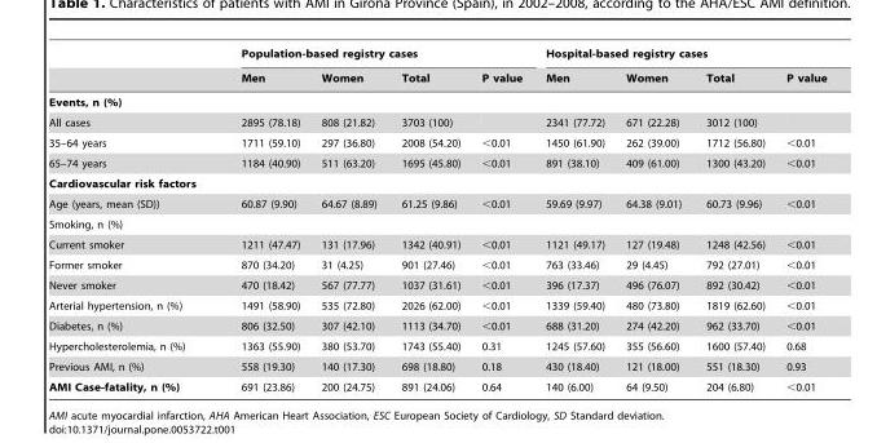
<table><thead><tr><td rowspan="2"></td><td colspan="4">Population-based registry cases</td><td colspan="4">Hospital-based registry cases</td></tr><tr><td>Men</td><td>Women</td><td>Total</td><td>P value</td><td>Men</td><td>Women</td><td>Total</td><td>P value</td></tr></thead><tbody><tr><td colspan="9">Events, n (%)</td></tr><tr><td>All cases</td><td>2895 (78.18)</td><td>808 (21.82)</td><td>3703 (100)</td><td></td><td>2341 (77.72)</td><td>671 (22.28)</td><td>3012 (100)</td><td></td></tr><tr><td>35–64 years</td><td>1711 (59.10)</td><td>297 (36.80)</td><td>2008 (54.20)</td><td>&lt;0.01</td><td>1450 (61.90)</td><td>262 (39.00)</td><td>1712 (56.80)</td><td>&lt;0.01</td></tr><tr><td>65–74 years</td><td>1184 (40.90)</td><td>511 (63.20)</td><td>1695 (45.80)</td><td>&lt;0.01</td><td>891 (38.10)</td><td>409 (61.00)</td><td>1300 (43.20)</td><td>&lt;0.01</td></tr><tr><td colspan="9">Cardiovascular risk factors</td></tr><tr><td>Age (years, mean (SD))</td><td>60.87 (9.90)</td><td>64.67 (8.89)</td><td>61.25 (9.86)</td><td>&lt;0.01</td><td>59.69 (9.97)</td><td>64.38 (9.01)</td><td>60.73 (9.96)</td><td>&lt;0.01</td></tr><tr><td colspan="9">Smoking, n (%)</td></tr><tr><td>Current smoker</td><td>1211 (47.47)</td><td>131 (17.96)</td><td>1342 (40.91)</td><td>&lt;0.01</td><td>1121 (49.17)</td><td>127 (19.48)</td><td>1248 (42.56)</td><td>&lt;0.01</td></tr><tr><td>Former smoker</td><td>870 (34.20)</td><td>31 (4.25)</td><td>901 (27.46)</td><td>&lt;0.01</td><td>763 (33.46)</td><td>29 (4.45)</td><td>792 (27.01)</td><td>&lt;0.01</td></tr><tr><td>Never smoker</td><td>470 (18.42)</td><td>567 (77.77)</td><td>1037 (31.61)</td><td>&lt;0.01</td><td>396 (17.37)</td><td>496 (76.07)</td><td>892 (30.42)</td><td>&lt;0.01</td></tr><tr><td>Arterial hypertension, n (%)</td><td>1491 (58.90)</td><td>535 (72.80)</td><td>2026 (62.00)</td><td>&lt;0.01</td><td>1339 (59.40)</td><td>480 (73.80)</td><td>1819 (62.60)</td><td>&lt;0.01</td></tr><tr><td>Diabetes, n (%)</td><td>806 (32.50)</td><td>307 (42.10)</td><td>1113 (34.70)</td><td>&lt;0.01</td><td>688 (31.20)</td><td>274 (42.20)</td><td>962 (33.70)</td><td>&lt;0.01</td></tr><tr><td>Hypercholesterolemia, n (%)</td><td>1363 (55.90)</td><td>380 (53.70)</td><td>1743 (55.40)</td><td>0.31</td><td>1245 (57.60)</td><td>355 (56.60)</td><td>1600 (57.40)</td><td>0.68</td></tr><tr><td>Previous AMI, n (%)</td><td>558 (19.30)</td><td>140 (17.30)</td><td>698 (18.80)</td><td>0.18</td><td>430 (18.40)</td><td>121 (18.00)</td><td>551 (18.30)</td><td>0.93</td></tr><tr><td>AMI Case-fatality, n (%)</td><td>691 (23.86)</td><td>200 (24.75)</td><td>891 (24.06)</td><td>0.64</td><td>140 (6.00)</td><td>64 (9.50)</td><td>204 (6.80)</td><td>&lt;0.01</td></tr></tbody></table>